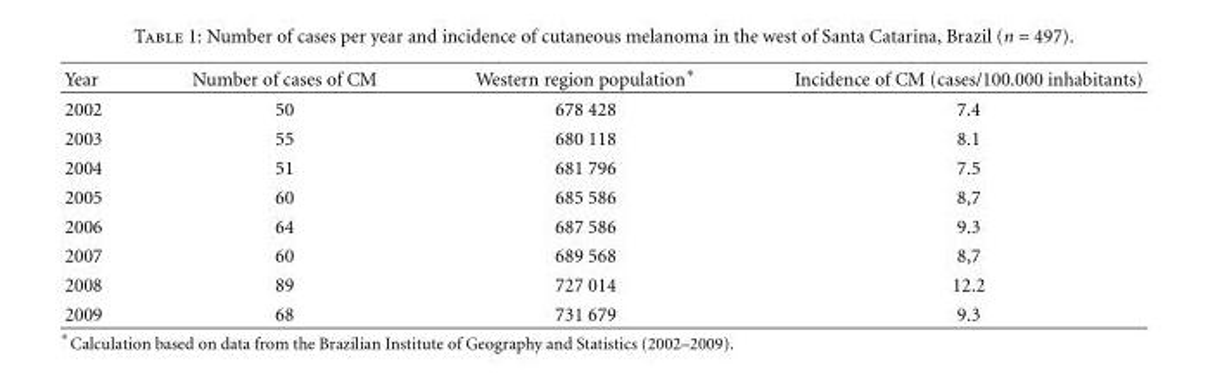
<table><thead><tr><td>Year</td><td>Number of cases of CM</td><td>Western region population∗</td><td>Incidence of CM (cases/100.000 inhabitants)</td></tr></thead><tbody><tr><td>2002</td><td>50</td><td>678 428</td><td>7.4</td></tr><tr><td>2003</td><td>55</td><td>680 118</td><td>8.1</td></tr><tr><td>2004</td><td>51</td><td>681 796</td><td>7.5</td></tr><tr><td>2005</td><td>60</td><td>685 586</td><td>8,7</td></tr><tr><td>2006</td><td>64</td><td>687 586</td><td>9.3</td></tr><tr><td>2007</td><td>60</td><td>689 568</td><td>8,7</td></tr><tr><td>2008</td><td>89</td><td>727 014</td><td>12.2</td></tr><tr><td>2009</td><td>68</td><td>731 679</td><td>9.3</td></tr></tbody></table>